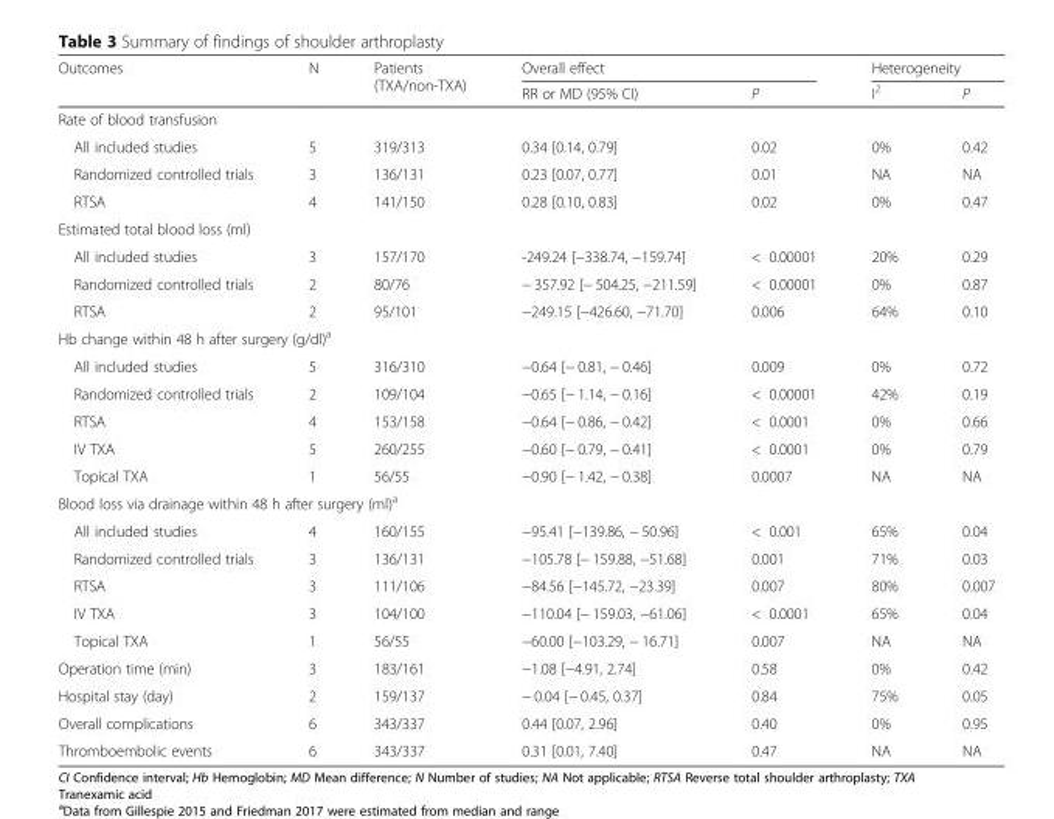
<table><thead><tr><td rowspan="2">Outcomes</td><td rowspan="2">N</td><td rowspan="2">Patients (TXA/non-TXA)</td><td colspan="2">Overall effect</td><td colspan="2">Heterogeneity</td></tr><tr><td>RR or MD (95% CI)</td><td>P</td><td>I<sup>2</sup></td><td>P</td></tr></thead><tbody><tr><td colspan="7">Rate of blood transfusion</td></tr><tr><td>All included studies</td><td>5</td><td>319/313</td><td>0.34 [0.14, 0.79]</td><td>0.02</td><td>0%</td><td>0.42</td></tr><tr><td>Randomized controlled trials</td><td>3</td><td>136/131</td><td>0.23 [0.07, 0.77]</td><td>0.01</td><td>NA</td><td>NA</td></tr><tr><td>RTSA</td><td>4</td><td>141/150</td><td>0.28 [0.10, 0.83]</td><td>0.02</td><td>0%</td><td>0.47</td></tr><tr><td colspan="7">Estimated total blood loss (ml)</td></tr><tr><td>All included studies</td><td>3</td><td>157/170</td><td>-249.24 [−338.74, −159.74]</td><td>&lt; 0.00001</td><td>20%</td><td>0.29</td></tr><tr><td>Randomized controlled trials</td><td>2</td><td>80/76</td><td>− 357.92 [− 504.25, −211.59]</td><td>&lt; 0.00001</td><td>0%</td><td>0.87</td></tr><tr><td>RTSA</td><td>2</td><td>95/101</td><td>−249.15 [−426.60, −71.70]</td><td>0.006</td><td>64%</td><td>0.10</td></tr><tr><td colspan="7">Hb change within 48 h after surgery (g/dl)<sup>a</sup></td></tr><tr><td>All included studies</td><td>5</td><td>316/310</td><td>−0.64 [− 0.81, − 0.46]</td><td>0.009</td><td>0%</td><td>0.72</td></tr><tr><td>Randomized controlled trials</td><td>2</td><td>109/104</td><td>−0.65 [− 1.14, − 0.16]</td><td>&lt; 0.00001</td><td>42%</td><td>0.19</td></tr><tr><td>RTSA</td><td>4</td><td>153/158</td><td>−0.64 [− 0.86, − 0.42]</td><td>&lt; 0.0001</td><td>0%</td><td>0.66</td></tr><tr><td>IV TXA</td><td>5</td><td>260/255</td><td>−0.60 [− 0.79, − 0.41]</td><td>&lt; 0.0001</td><td>0%</td><td>0.79</td></tr><tr><td>Topical TXA</td><td>1</td><td>56/55</td><td>−0.90 [− 1.42, − 0.38]</td><td>0.0007</td><td>NA</td><td>NA</td></tr><tr><td colspan="7">Blood loss via drainage within 48 h after surgery (ml)<sup>a</sup></td></tr><tr><td>All included studies</td><td>4</td><td>160/155</td><td>−95.41 [−139.86, − 50.96]</td><td>&lt; 0.001</td><td>65%</td><td>0.04</td></tr><tr><td>Randomized controlled trials</td><td>3</td><td>136/131</td><td>−105.78 [− 159.88, −51.68]</td><td>0.001</td><td>71%</td><td>0.03</td></tr><tr><td>RTSA</td><td>3</td><td>111/106</td><td>−84.56 [−145.72, −23.39]</td><td>0.007</td><td>80%</td><td>0.007</td></tr><tr><td>IV TXA</td><td>3</td><td>104/100</td><td>−110.04 [− 159.03, −61.06]</td><td>&lt; 0.0001</td><td>65%</td><td>0.04</td></tr><tr><td>Topical TXA</td><td>1</td><td>56/55</td><td>−60.00 [−103.29, − 16.71]</td><td>0.007</td><td>NA</td><td>NA</td></tr><tr><td>Operation time (min)</td><td>3</td><td>183/161</td><td>−1.08 [−4.91, 2.74]</td><td>0.58</td><td>0%</td><td>0.42</td></tr><tr><td>Hospital stay (day)</td><td>2</td><td>159/137</td><td>− 0.04 [− 0.45, 0.37]</td><td>0.84</td><td>75%</td><td>0.05</td></tr><tr><td>Overall complications</td><td>6</td><td>343/337</td><td>0.44 [0.07, 2.96]</td><td>0.40</td><td>0%</td><td>0.95</td></tr><tr><td>Thromboembolic events</td><td>6</td><td>343/337</td><td>0.31 [0.01, 7.40]</td><td>0.47</td><td>NA</td><td>NA</td></tr></tbody></table>